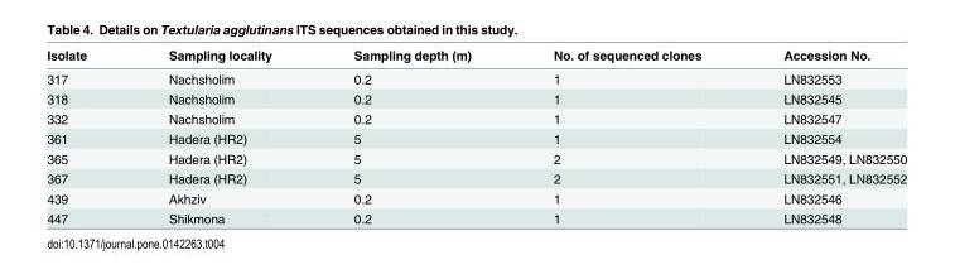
<table><thead><tr><td>Isolate</td><td>Sampling locality</td><td>Sampling depth (m)</td><td>No. of sequenced clones</td><td>Accession No.</td></tr></thead><tbody><tr><td>317</td><td>Nachsholim</td><td>0.2</td><td>1</td><td>LN832553</td></tr><tr><td>318</td><td>Nachsholim</td><td>0.2</td><td>1</td><td>LN832545</td></tr><tr><td>332</td><td>Nachsholim</td><td>0.2</td><td>1</td><td>LN832547</td></tr><tr><td>361</td><td>Hadera (HR2)</td><td>5</td><td>1</td><td>LN832554</td></tr><tr><td>365</td><td>Hadera (HR2)</td><td>5</td><td>2</td><td>LN832549, LN832550</td></tr><tr><td>367</td><td>Hadera (HR2)</td><td>5</td><td>2</td><td>LN832551, LN832552</td></tr><tr><td>439</td><td>Akhziv</td><td>0.2</td><td>1</td><td>LN832546</td></tr><tr><td>447</td><td>Shikmona</td><td>0.2</td><td>1</td><td>LN832548</td></tr></tbody></table>